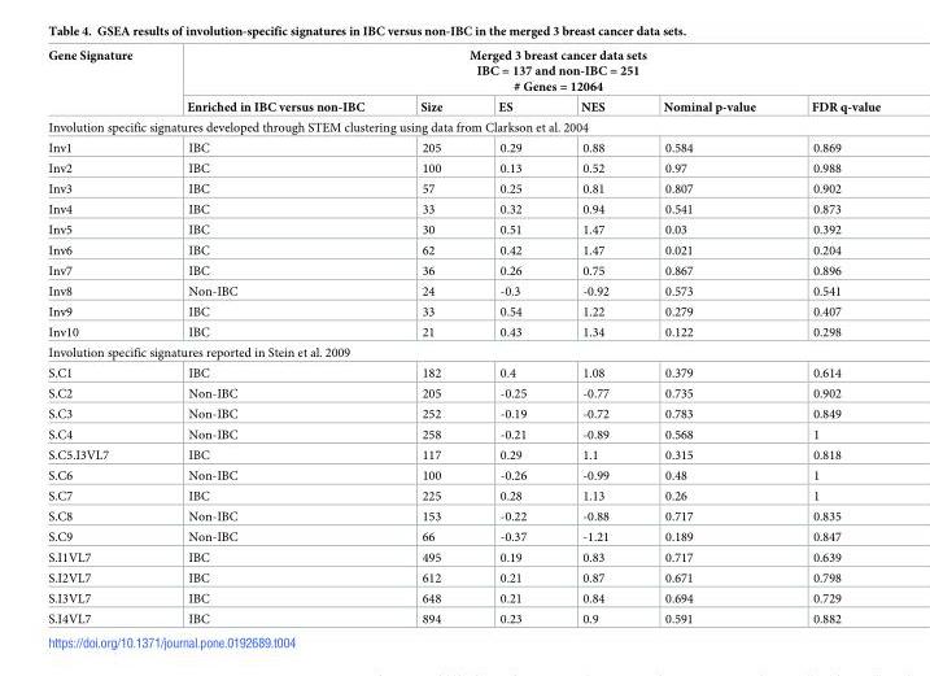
<table><thead><tr><td rowspan="2">Gene Signature</td><td colspan="6">Merged 3 breast cancer data sets IBC = 137 and non-IBC = 251 # Genes = 12064</td></tr><tr><td>Enriched in IBC versus non-IBC</td><td>Size</td><td>ES</td><td>NES</td><td>Nominal p-value</td><td>FDR q-value</td></tr></thead><tbody><tr><td colspan="7">Involution specific signatures developed through STEM clustering using data from Clarkson et al. 2004</td></tr><tr><td>Inv1</td><td>IBC</td><td>205</td><td>0.29</td><td>0.88</td><td>0.584</td><td>0.869</td></tr><tr><td>Inv2</td><td>IBC</td><td>100</td><td>0.13</td><td>0.52</td><td>0.97</td><td>0.988</td></tr><tr><td>Inv3</td><td>IBC</td><td>57</td><td>0.25</td><td>0.81</td><td>0.807</td><td>0.902</td></tr><tr><td>Inv4</td><td>IBC</td><td>33</td><td>0.32</td><td>0.94</td><td>0.541</td><td>0.873</td></tr><tr><td>Inv5</td><td>IBC</td><td>30</td><td>0.51</td><td>1.47</td><td>0.03</td><td>0.392</td></tr><tr><td>Inv6</td><td>IBC</td><td>62</td><td>0.42</td><td>1.47</td><td>0.021</td><td>0.204</td></tr><tr><td>Inv7</td><td>IBC</td><td>36</td><td>0.26</td><td>0.75</td><td>0.867</td><td>0.896</td></tr><tr><td>Inv8</td><td>Non-IBC</td><td>24</td><td>-0.3</td><td>-0.92</td><td>0.573</td><td>0.541</td></tr><tr><td>Inv9</td><td>IBC</td><td>33</td><td>0.54</td><td>1.22</td><td>0.279</td><td>0.407</td></tr><tr><td>Inv10</td><td>IBC</td><td>21</td><td>0.43</td><td>1.34</td><td>0.122</td><td>0.298</td></tr><tr><td colspan="7">Involution specific signatures reported in Stein et al. 2009</td></tr><tr><td>S.C1</td><td>IBC</td><td>182</td><td>0.4</td><td>1.08</td><td>0.379</td><td>0.614</td></tr><tr><td>S.C2</td><td>Non-IBC</td><td>205</td><td>-0.25</td><td>-0.77</td><td>0.735</td><td>0.902</td></tr><tr><td>S.C3</td><td>Non-IBC</td><td>252</td><td>-0.19</td><td>-0.72</td><td>0.783</td><td>0.849</td></tr><tr><td>S.C4</td><td>Non-IBC</td><td>258</td><td>-0.21</td><td>-0.89</td><td>0.568</td><td>1</td></tr><tr><td>S.C5.I3VL7</td><td>IBC</td><td>117</td><td>0.29</td><td>1.1</td><td>0.315</td><td>0.818</td></tr><tr><td>S.C6</td><td>Non-IBC</td><td>100</td><td>-0.26</td><td>-0.99</td><td>0.48</td><td>1</td></tr><tr><td>S.C7</td><td>IBC</td><td>225</td><td>0.28</td><td>1.13</td><td>0.26</td><td>1</td></tr><tr><td>S.C8</td><td>Non-IBC</td><td>153</td><td>-0.22</td><td>-0.88</td><td>0.717</td><td>0.835</td></tr><tr><td>S.C9</td><td>Non-IBC</td><td>66</td><td>-0.37</td><td>-1.21</td><td>0.189</td><td>0.847</td></tr><tr><td>S.I1VL7</td><td>IBC</td><td>495</td><td>0.19</td><td>0.83</td><td>0.717</td><td>0.639</td></tr><tr><td>S.I2VL7</td><td>IBC</td><td>612</td><td>0.21</td><td>0.87</td><td>0.671</td><td>0.798</td></tr><tr><td>S.I3VL7</td><td>IBC</td><td>648</td><td>0.21</td><td>0.84</td><td>0.694</td><td>0.729</td></tr><tr><td>S.I4VL7</td><td>IBC</td><td>894</td><td>0.23</td><td>0.9</td><td>0.591</td><td>0.882</td></tr></tbody></table>